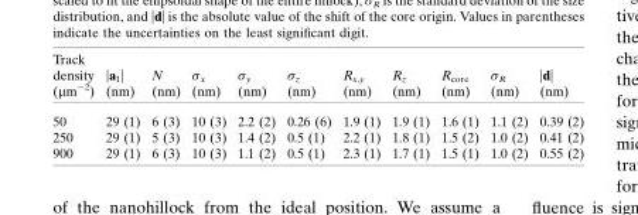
<table><thead><tr><td>Track density (µm<sup>−2</sup>)</td><td>|a<sub>1</sub>| (nm)</td><td>N (nm)</td><td>σ<sub>x</sub> (nm)</td><td>σ<sub>y</sub> (nm)</td><td>σ<sub>z</sub> (nm)</td><td>R<sub>x,y</sub> (nm)</td><td>R<sub>z</sub> (nm)</td><td>R<sub>core</sub> (nm)</td><td>σ<sub>R</sub> (nm)</td><td>|d| (nm)</td></tr></thead><tbody><tr><td>50</td><td>29 (1)</td><td>6 (3)</td><td>10 (3)</td><td>2.2 (2)</td><td>0.26 (6)</td><td>1.9 (1)</td><td>1.9 (1)</td><td>1.6 (1)</td><td>1.1 (2)</td><td>0.39 (2)</td></tr><tr><td>250</td><td>29 (1)</td><td>5 (3)</td><td>10 (3)</td><td>1.4 (2)</td><td>0.5 (1)</td><td>2.2 (1)</td><td>1.8 (1)</td><td>1.5 (2)</td><td>1.0 (2)</td><td>0.41 (2)</td></tr><tr><td>900</td><td>29 (1)</td><td>6 (3)</td><td>10 (3)</td><td>1.1 (2)</td><td>0.5 (1)</td><td>2.3 (1)</td><td>1.7 (1)</td><td>1.5 (1)</td><td>1.0 (2)</td><td>0.55 (2)</td></tr></tbody></table>